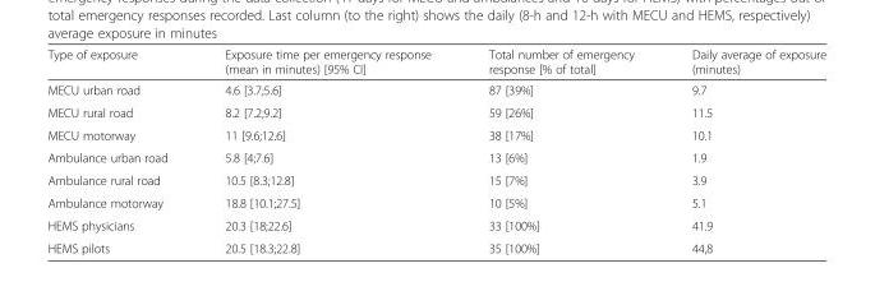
<table><thead><tr><td>Type of exposure</td><td>Exposure time per emergency response (mean in minutes) [95% CI]</td><td>Total number of emergency response [% of total]</td><td>Daily average of exposure (minutes)</td></tr></thead><tbody><tr><td>MECU urban road</td><td>4.6 [3.7;5.6]</td><td>87 [39%]</td><td>9.7</td></tr><tr><td>MECU rural road</td><td>8.2 [7.2;9.2]</td><td>59 [26%]</td><td>11.5</td></tr><tr><td>MECU motorway</td><td>11 [9.6;12.6]</td><td>38 [17%]</td><td>10.1</td></tr><tr><td>Ambulance urban road</td><td>5.8 [4;7.6]</td><td>13 [6%]</td><td>1.9</td></tr><tr><td>Ambulance rural road</td><td>10.5 [8.3;12.8]</td><td>15 [7%]</td><td>3.9</td></tr><tr><td>Ambulance motorway</td><td>18.8 [10.1;27.5]</td><td>10 [5%]</td><td>5.1</td></tr><tr><td>HEMS physicians</td><td>20.3 [18;22.6]</td><td>33 [100%]</td><td>41.9</td></tr><tr><td>HEMS pilots</td><td>20.5 [18.3;22.8]</td><td>35 [100%]</td><td>44,8</td></tr></tbody></table>